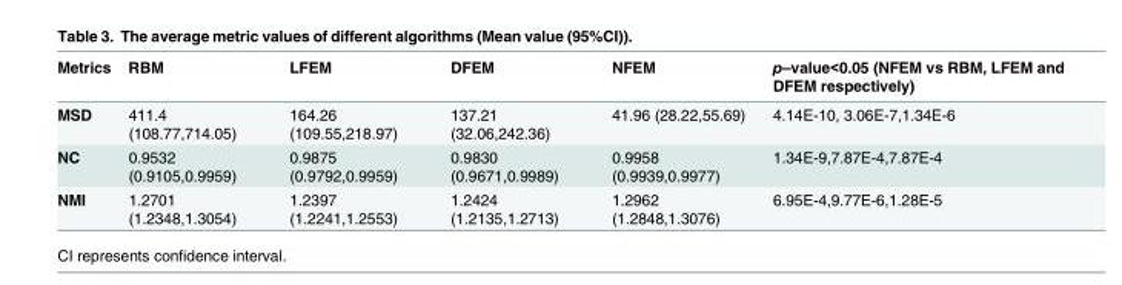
<table><thead><tr><td>Metrics</td><td>RBM</td><td>LFEM</td><td>DFEM</td><td>NFEM</td><td>p–value&lt;0.05 (NFEM vs RBM, LFEM and DFEM respectively)</td></tr></thead><tbody><tr><td>MSD</td><td>411.4 (108.77,714.05)</td><td>164.26 (109.55,218.97)</td><td>137.21 (32.06,242.36)</td><td>41.96 (28.22,55.69)</td><td>4.14E-10, 3.06E-7,1.34E-6</td></tr><tr><td>NC</td><td>0.9532 (0.9105,0.9959)</td><td>0.9875 (0.9792,0.9959)</td><td>0.9830 (0.9671,0.9989)</td><td>0.9958 (0.9939,0.9977)</td><td>1.34E-9,7.87E-4,7.87E-4</td></tr><tr><td>NMI</td><td>1.2701 (1.2348,1.3054)</td><td>1.2397 (1.2241,1.2553)</td><td>1.2424 (1.2135,1.2713)</td><td>1.2962 (1.2848,1.3076)</td><td>6.95E-4,9.77E-6,1.28E-5</td></tr></tbody></table>